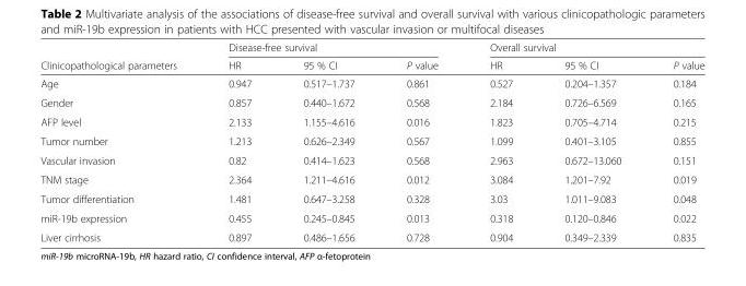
<table><thead><tr><td rowspan="2">Clinicopathological parameters</td><td colspan="3">Disease-free survival</td><td colspan="3">Overall survival</td></tr><tr><td>HR</td><td>95 % CI</td><td>P value</td><td>HR</td><td>95 % CI</td><td>P value</td></tr></thead><tbody><tr><td>Age</td><td>0.947</td><td>0.517–1.737</td><td>0.861</td><td>0.527</td><td>0.204–1.357</td><td>0.184</td></tr><tr><td>Gender</td><td>0.857</td><td>0.440–1.672</td><td>0.568</td><td>2.184</td><td>0.726–6.569</td><td>0.165</td></tr><tr><td>AFP level</td><td>2.133</td><td>1.155–4.616</td><td>0.016</td><td>1.823</td><td>0.705–4.714</td><td>0.215</td></tr><tr><td>Tumor number</td><td>1.213</td><td>0.626–2.349</td><td>0.567</td><td>1.099</td><td>0.401–3.105</td><td>0.855</td></tr><tr><td>Vascular invasion</td><td>0.82</td><td>0.414–1.623</td><td>0.568</td><td>2.963</td><td>0.672–13.060</td><td>0.151</td></tr><tr><td>TNM stage</td><td>2.364</td><td>1.211–4.616</td><td>0.012</td><td>3.084</td><td>1.201–7.92</td><td>0.019</td></tr><tr><td>Tumor differentiation</td><td>1.481</td><td>0.647–3.258</td><td>0.328</td><td>3.03</td><td>1.011–9.083</td><td>0.048</td></tr><tr><td>miR-19b expression</td><td>0.455</td><td>0.245–0.845</td><td>0.013</td><td>0.318</td><td>0.120–0.846</td><td>0.022</td></tr><tr><td>Liver cirrhosis</td><td>0.897</td><td>0.486–1.656</td><td>0.728</td><td>0.904</td><td>0.349–2.339</td><td>0.835</td></tr></tbody></table>